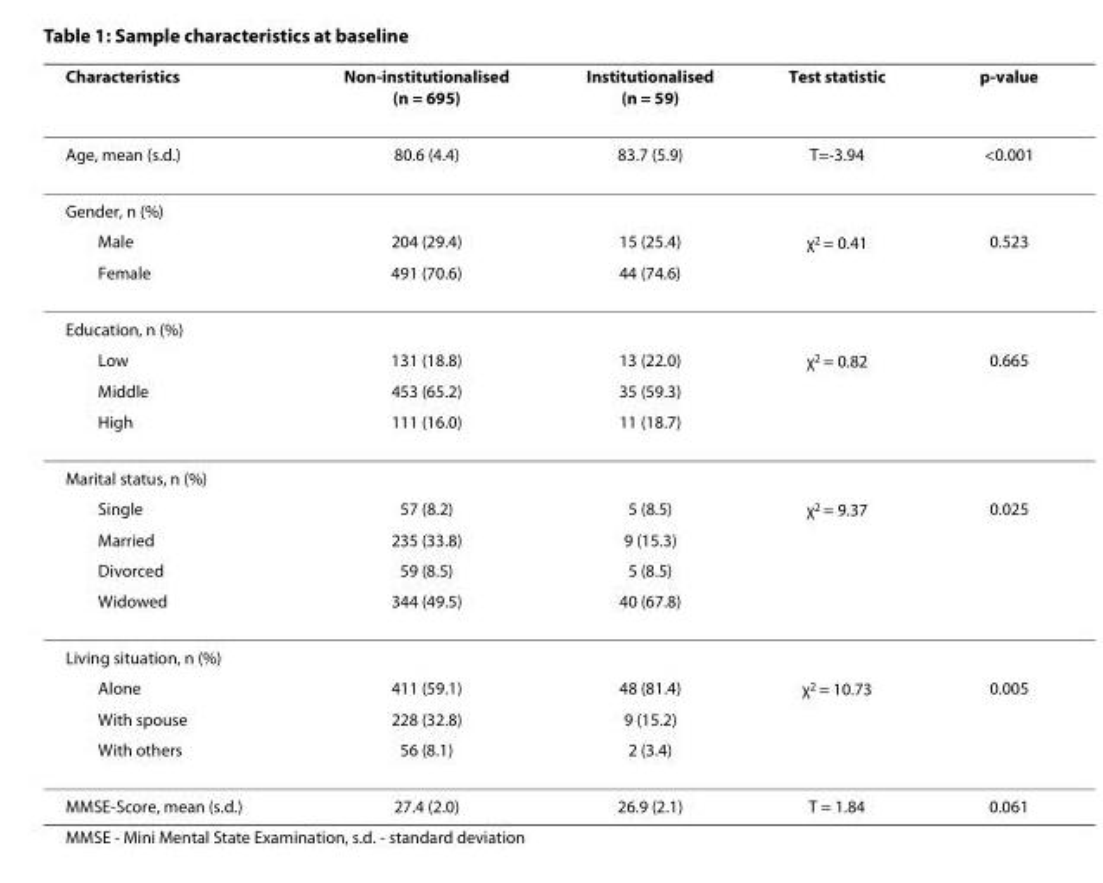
<table><thead><tr><td>Characteristics</td><td>Non-institutionalised (n = 695)</td><td>Institutionalised (n = 59)</td><td>Test statistic</td><td>p-value</td></tr></thead><tbody><tr><td>Age, mean (s.d.)</td><td>80.6 (4.4)</td><td>83.7 (5.9)</td><td>T=-3.94</td><td>&lt;0.001</td></tr><tr><td colspan="5">Gender, n (%)</td></tr><tr><td>Male</td><td>204 (29.4)</td><td>15 (25.4)</td><td>χ<sup>2</sup> = 0.41</td><td>0.523</td></tr><tr><td>Female</td><td>491 (70.6)</td><td>44 (74.6)</td><td></td><td></td></tr><tr><td colspan="5">Education, n (%)</td></tr><tr><td>Low</td><td>131 (18.8)</td><td>13 (22.0)</td><td>χ<sup>2</sup> = 0.82</td><td>0.665</td></tr><tr><td>Middle</td><td>453 (65.2)</td><td>35 (59.3)</td><td></td><td></td></tr><tr><td>High</td><td>111 (16.0)</td><td>11 (18.7)</td><td></td><td></td></tr><tr><td colspan="5">Marital status, n (%)</td></tr><tr><td>Single</td><td>57 (8.2)</td><td>5 (8.5)</td><td>χ<sup>2</sup> = 9.37</td><td>0.025</td></tr><tr><td>Married</td><td>235 (33.8)</td><td>9 (15.3)</td><td></td><td></td></tr><tr><td>Divorced</td><td>59 (8.5)</td><td>5 (8.5)</td><td></td><td></td></tr><tr><td>Widowed</td><td>344 (49.5)</td><td>40 (67.8)</td><td></td><td></td></tr><tr><td colspan="5">Living situation, n (%)</td></tr><tr><td>Alone</td><td>411 (59.1)</td><td>48 (81.4)</td><td>χ<sup>2</sup> = 10.73</td><td>0.005</td></tr><tr><td>With spouse</td><td>228 (32.8)</td><td>9 (15.2)</td><td></td><td></td></tr><tr><td>With others</td><td>56 (8.1)</td><td>2 (3.4)</td><td></td><td></td></tr><tr><td>MMSE-Score, mean (s.d.)</td><td>27.4 (2.0)</td><td>26.9 (2.1)</td><td>T = 1.84</td><td>0.061</td></tr></tbody></table>